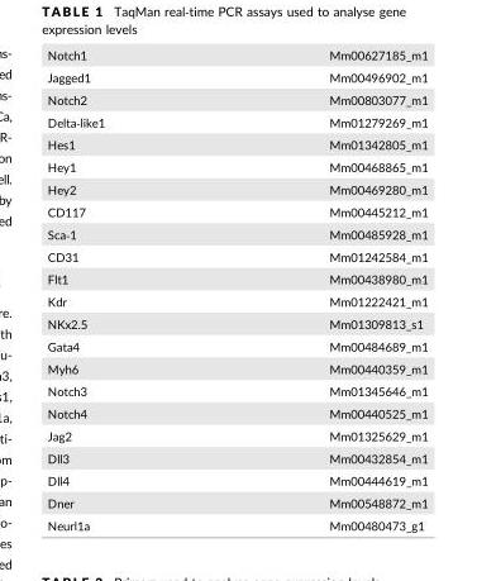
<table><tbody><tr><td>Notch1</td><td>Mm00627185_m1</td></tr><tr><td>Jagged1</td><td>Mm00496902_m1</td></tr><tr><td>Notch2</td><td>Mm00803077_m1</td></tr><tr><td>Delta‐like1</td><td>Mm01279269_m1</td></tr><tr><td>Hes1</td><td>Mm01342805_m1</td></tr><tr><td>Hey1</td><td>Mm00468865_m1</td></tr><tr><td>Hey2</td><td>Mm00469280_m1</td></tr><tr><td>CD117</td><td>Mm00445212_m1</td></tr><tr><td>Sca‐1</td><td>Mm00485928_m1</td></tr><tr><td>CD31</td><td>Mm01242584_m1</td></tr><tr><td>Flt1</td><td>Mm00438980_m1</td></tr><tr><td>Kdr</td><td>Mm01222421_m1</td></tr><tr><td>NKx2.5</td><td>Mm01309813_s1</td></tr><tr><td>Gata4</td><td>Mm00484689_m1</td></tr><tr><td>Myh6</td><td>Mm00440359_m1</td></tr><tr><td>Notch3</td><td>Mm01345646_m1</td></tr><tr><td>Notch4</td><td>Mm00440525_m1</td></tr><tr><td>Jag2</td><td>Mm01325629_m1</td></tr><tr><td>Dll3</td><td>Mm00432854_m1</td></tr><tr><td>Dll4</td><td>Mm00444619_m1</td></tr><tr><td>Dner</td><td>Mm00548872_m1</td></tr><tr><td>Neurl1a</td><td>Mm00480473_g1</td></tr></tbody></table>